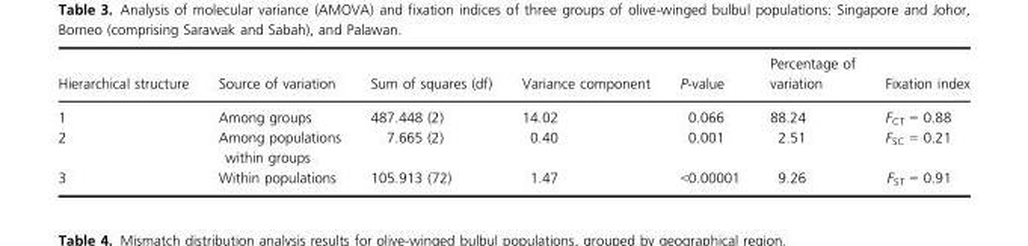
<table><thead><tr><td>Hierarchical structure</td><td>Source of variation</td><td>Sum of squares (df)</td><td>Variance component</td><td>P-value</td><td>Percentage of variation</td><td>Fixation index</td></tr></thead><tbody><tr><td>1</td><td>Among groups</td><td>487.448 (2)</td><td>14.02</td><td>0.066</td><td>88.24</td><td>F<sub>CT</sub> = 0.88</td></tr><tr><td>2</td><td>Among populations within groups</td><td>7.665 (2)</td><td>0.40</td><td>0.001</td><td>2.51</td><td>F<sub>SC</sub> = 0.21</td></tr><tr><td>3</td><td>Within populations</td><td>105.913 (72)</td><td>1.47</td><td>&lt;0.00001</td><td>9.26</td><td>F<sub>ST</sub> = 0.91</td></tr></tbody></table>